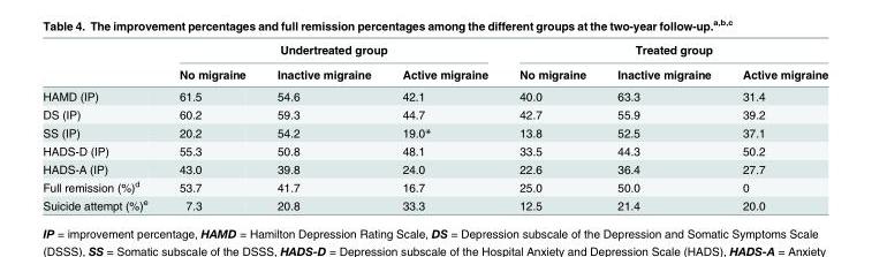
<table><thead><tr><td rowspan="2"></td><td colspan="3">Undertreated group</td><td colspan="3">Treated group</td></tr><tr><td>No migraine</td><td>Inactive migraine</td><td>Active migraine</td><td>No migraine</td><td>Inactive migraine</td><td>Active migraine</td></tr></thead><tbody><tr><td>HAMD (IP)</td><td>61.5</td><td>54.6</td><td>42.1</td><td>40.0</td><td>63.3</td><td>31.4</td></tr><tr><td>DS (IP)</td><td>60.2</td><td>59.3</td><td>44.7</td><td>42.7</td><td>55.9</td><td>39.2</td></tr><tr><td>SS (IP)</td><td>20.2</td><td>54.2</td><td>19.0*</td><td>13.8</td><td>52.5</td><td>37.1</td></tr><tr><td>HADS-D (IP)</td><td>55.3</td><td>50.8</td><td>48.1</td><td>33.5</td><td>44.3</td><td>50.2</td></tr><tr><td>HADS-A (IP)</td><td>43.0</td><td>39.8</td><td>24.0</td><td>22.6</td><td>36.4</td><td>27.7</td></tr><tr><td>Full remission (%)<sup>d</sup></td><td>53.7</td><td>41.7</td><td>16.7</td><td>25.0</td><td>50.0</td><td>0</td></tr><tr><td>Suicide attempt (%)<sup>e</sup></td><td>7.3</td><td>20.8</td><td>33.3</td><td>12.5</td><td>21.4</td><td>20.0</td></tr></tbody></table>